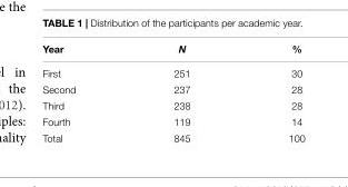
<table><thead><tr><td>Year</td><td>N</td><td>%</td></tr></thead><tbody><tr><td>First</td><td>251</td><td>30</td></tr><tr><td>Second</td><td>237</td><td>28</td></tr><tr><td>Third</td><td>238</td><td>28</td></tr><tr><td>Fourth</td><td>119</td><td>14</td></tr><tr><td>Total</td><td>845</td><td>100</td></tr></tbody></table>